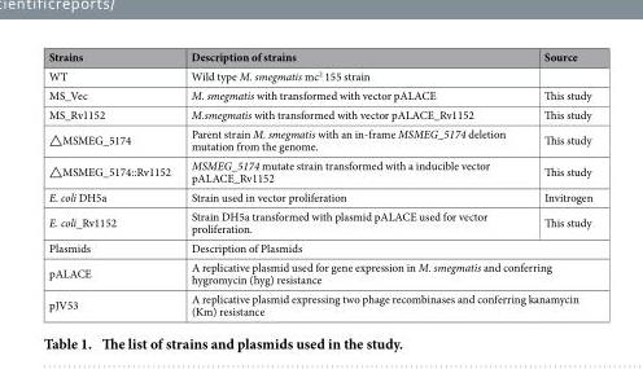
<table><thead><tr><td>Strains</td><td>Description of strains</td><td>Source</td></tr></thead><tbody><tr><td>WT</td><td>Wild type M. smegmatis mc<sup>2</sup> 155 strain</td><td></td></tr><tr><td>MS_Vec</td><td>M. smegmatis with transformed with vector pALACE</td><td>This study</td></tr><tr><td>MS_Rv1152</td><td>M.smegmatis with transformed with vector pALACE_Rv1152</td><td>This study</td></tr><tr><td>△ MSMEG_5174</td><td>Parent strain M. smegmatis with an in-frame MSMEG_5174 deletion mutation from the genome.</td><td>This study</td></tr><tr><td>△ MSMEG_5174::Rv1152</td><td>MSMEG_5174 mutate strain transformed with a inducible vector pALACE_Rv1152</td><td>This study</td></tr><tr><td>E. coli DH5a</td><td>Strain used in vector proliferation</td><td>Invitrogen</td></tr><tr><td>E. coli_Rv1152</td><td>Strain DH5a transformed with plasmid pALACE used for vector proliferation.</td><td>This study</td></tr><tr><td>Plasmids</td><td colspan="2">Description of Plasmids</td></tr><tr><td>pALACE</td><td colspan="2">A replicative plasmid used for gene expression in M. smegmatis and conferring hygromycin (hyg) resistance</td></tr><tr><td>pJV53</td><td colspan="2">A replicative plasmid expressing two phage recombinases and conferring kanamycin (Km) resistance</td></tr></tbody></table>